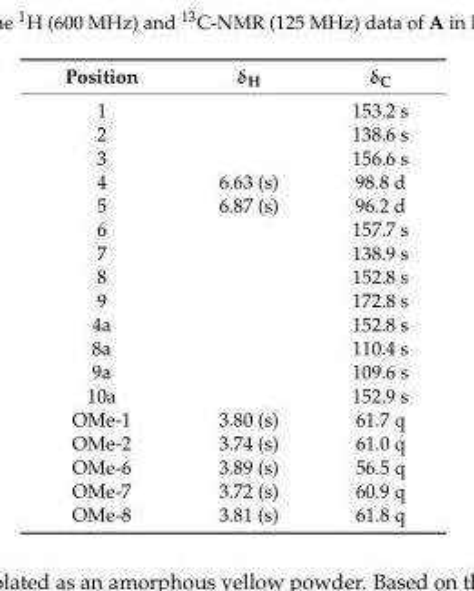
<table><thead><tr><td>Position</td><td>δ<sub>H</sub></td><td>δ<sub>C</sub></td></tr></thead><tbody><tr><td>1</td><td></td><td>153.2 s</td></tr><tr><td>2</td><td></td><td>138.6 s</td></tr><tr><td>3</td><td></td><td>156.6 s</td></tr><tr><td>4</td><td>6.63 (s)</td><td>98.8 d</td></tr><tr><td>5</td><td>6.87 (s)</td><td>96.2 d</td></tr><tr><td>6</td><td></td><td>157.7 s</td></tr><tr><td>7</td><td></td><td>138.9 s</td></tr><tr><td>8</td><td></td><td>152.8 s</td></tr><tr><td>9</td><td></td><td>172.8 s</td></tr><tr><td>4a</td><td></td><td>152.8 s</td></tr><tr><td>8a</td><td></td><td>110.4 s</td></tr><tr><td>9a</td><td></td><td>109.6 s</td></tr><tr><td>10a</td><td></td><td>152.9 s</td></tr><tr><td>OMe-1</td><td>3.80 (s)</td><td>61.7 q</td></tr><tr><td>OMe-2</td><td>3.74 (s)</td><td>61.0 q</td></tr><tr><td>OMe-6</td><td>3.89 (s)</td><td>56.5 q</td></tr><tr><td>OMe-7</td><td>3.72 (s)</td><td>60.9 q</td></tr><tr><td>OMe-8</td><td>3.81 (s)</td><td>61.8 q</td></tr></tbody></table>